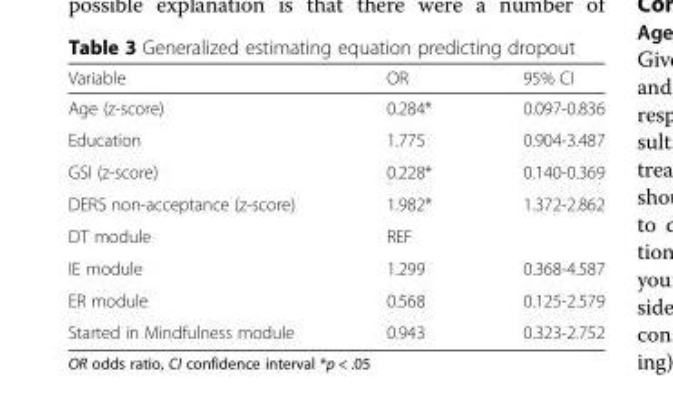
<table><thead><tr><td>Variable</td><td>OR</td><td>95% CI</td></tr></thead><tbody><tr><td>Age (z-score)</td><td>0.284*</td><td>0.097-0.836</td></tr><tr><td>Education</td><td>1.775</td><td>0.904-3.487</td></tr><tr><td>GSI (z-score)</td><td>0.228*</td><td>0.140-0.369</td></tr><tr><td>DERS non-acceptance (z-score)</td><td>1.982*</td><td>1.372-2.862</td></tr><tr><td>DT module</td><td>REF</td><td></td></tr><tr><td>IE module</td><td>1.299</td><td>0.368-4.587</td></tr><tr><td>ER module</td><td>0.568</td><td>0.125-2.579</td></tr><tr><td>Started in Mindfulness module</td><td>0.943</td><td>0.323-2.752</td></tr></tbody></table>